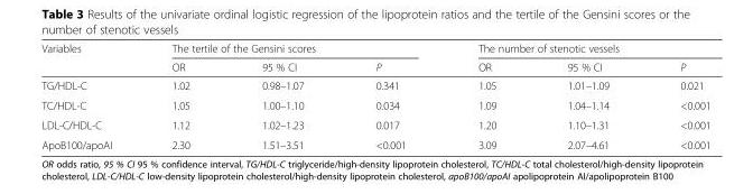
<table><thead><tr><td rowspan="2">Variables</td><td colspan="3">The tertile of the Gensini scores</td><td colspan="3">The number of stenotic vessels</td></tr><tr><td>OR</td><td>95 % CI</td><td>P</td><td>OR</td><td>95 % CI</td><td>P</td></tr></thead><tbody><tr><td>TG/HDL-C</td><td>1.02</td><td>0.98–1.07</td><td>0.341</td><td>1.05</td><td>1.01–1.09</td><td>0.021</td></tr><tr><td>TC/HDL-C</td><td>1.05</td><td>1.00–1.10</td><td>0.034</td><td>1.09</td><td>1.04–1.14</td><td>&lt;0.001</td></tr><tr><td>LDL-C/HDL-C</td><td>1.12</td><td>1.02–1.23</td><td>0.017</td><td>1.20</td><td>1.10–1.31</td><td>&lt;0.001</td></tr><tr><td>ApoB100/apoAI</td><td>2.30</td><td>1.51–3.51</td><td>&lt;0.001</td><td>3.09</td><td>2.07–4.61</td><td>&lt;0.001</td></tr></tbody></table>